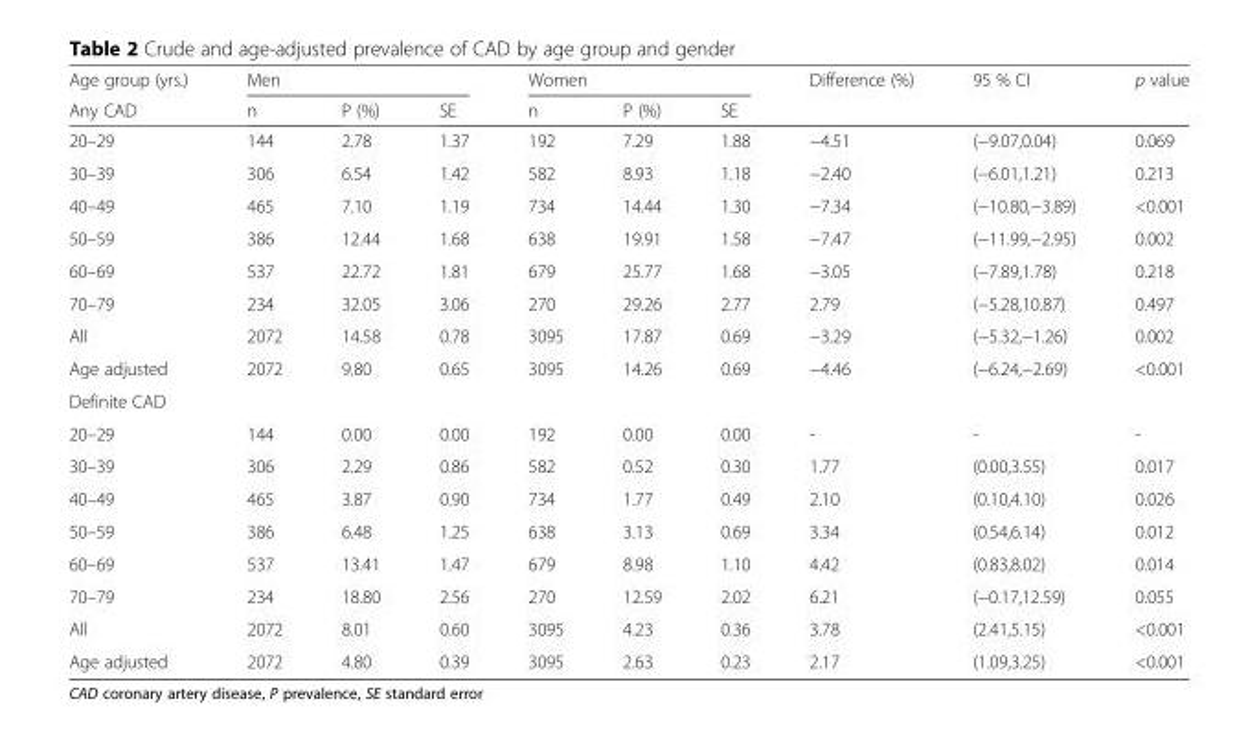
<table><thead><tr><td rowspan="2">Age group (yrs.) Any CAD</td><td colspan="3">Men</td><td colspan="3">Women</td><td rowspan="2">Difference (%)</td><td rowspan="2">95 % CI</td><td rowspan="2">p value</td></tr><tr><td>n</td><td>P (%)</td><td>SE</td><td>n</td><td>P (%)</td><td>SE</td></tr></thead><tbody><tr><td>20–29</td><td>144</td><td>2.78</td><td>1.37</td><td>192</td><td>7.29</td><td>1.88</td><td>−4.51</td><td>(−9.07,0.04)</td><td>0.069</td></tr><tr><td>30–39</td><td>306</td><td>6.54</td><td>1.42</td><td>582</td><td>8.93</td><td>1.18</td><td>−2.40</td><td>(−6.01,1.21)</td><td>0.213</td></tr><tr><td>40–49</td><td>465</td><td>7.10</td><td>1.19</td><td>734</td><td>14.44</td><td>1.30</td><td>−7.34</td><td>(−10.80,−3.89)</td><td>&lt;0.001</td></tr><tr><td>50–59</td><td>386</td><td>12.44</td><td>1.68</td><td>638</td><td>19.91</td><td>1.58</td><td>−7.47</td><td>(−11.99,−2.95)</td><td>0.002</td></tr><tr><td>60–69</td><td>537</td><td>22.72</td><td>1.81</td><td>679</td><td>25.77</td><td>1.68</td><td>−3.05</td><td>(−7.89,1.78)</td><td>0.218</td></tr><tr><td>70–79</td><td>234</td><td>32.05</td><td>3.06</td><td>270</td><td>29.26</td><td>2.77</td><td>2.79</td><td>(−5.28,10.87)</td><td>0.497</td></tr><tr><td>All</td><td>2072</td><td>14.58</td><td>0.78</td><td>3095</td><td>17.87</td><td>0.69</td><td>−3.29</td><td>(−5.32,−1.26)</td><td>0.002</td></tr><tr><td>Age adjusted</td><td>2072</td><td>9.80</td><td>0.65</td><td>3095</td><td>14.26</td><td>0.69</td><td>−4.46</td><td>(−6.24,−2.69)</td><td>&lt;0.001</td></tr><tr><td colspan="10">Definite CAD</td></tr><tr><td>20–29</td><td>144</td><td>0.00</td><td>0.00</td><td>192</td><td>0.00</td><td>0.00</td><td>-</td><td>-</td><td>-</td></tr><tr><td>30–39</td><td>306</td><td>2.29</td><td>0.86</td><td>582</td><td>0.52</td><td>0.30</td><td>1.77</td><td>(0.00,3.55)</td><td>0.017</td></tr><tr><td>40–49</td><td>465</td><td>3.87</td><td>0.90</td><td>734</td><td>1.77</td><td>0.49</td><td>2.10</td><td>(0.10,4.10)</td><td>0.026</td></tr><tr><td>50–59</td><td>386</td><td>6.48</td><td>1.25</td><td>638</td><td>3.13</td><td>0.69</td><td>3.34</td><td>(0.54,6.14)</td><td>0.012</td></tr><tr><td>60–69</td><td>537</td><td>13.41</td><td>1.47</td><td>679</td><td>8.98</td><td>1.10</td><td>4.42</td><td>(0.83,8.02)</td><td>0.014</td></tr><tr><td>70–79</td><td>234</td><td>18.80</td><td>2.56</td><td>270</td><td>12.59</td><td>2.02</td><td>6.21</td><td>(−0.17,12.59)</td><td>0.055</td></tr><tr><td>All</td><td>2072</td><td>8.01</td><td>0.60</td><td>3095</td><td>4.23</td><td>0.36</td><td>3.78</td><td>(2.41,5.15)</td><td>&lt;0.001</td></tr><tr><td>Age adjusted</td><td>2072</td><td>4.80</td><td>0.39</td><td>3095</td><td>2.63</td><td>0.23</td><td>2.17</td><td>(1.09,3.25)</td><td>&lt;0.001</td></tr></tbody></table>